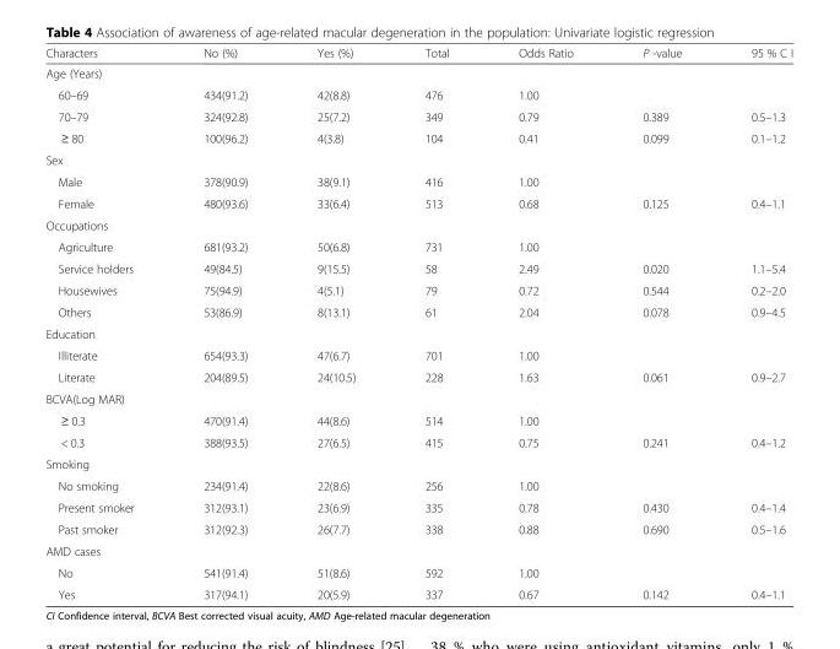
<table><thead><tr><td>Characters</td><td>No (%)</td><td>Yes (%)</td><td>Total</td><td>Odds Ratio</td><td>P -value</td><td>95 % C I</td></tr></thead><tbody><tr><td colspan="7">Age (Years)</td></tr><tr><td>60–69</td><td>434(91.2)</td><td>42(8.8)</td><td>476</td><td>1.00</td><td></td><td></td></tr><tr><td>70–79</td><td>324(92.8)</td><td>25(7.2)</td><td>349</td><td>0.79</td><td>0.389</td><td>0.5–1.3</td></tr><tr><td>≥ 80</td><td>100(96.2)</td><td>4(3.8)</td><td>104</td><td>0.41</td><td>0.099</td><td>0.1–1.2</td></tr><tr><td colspan="7">Sex</td></tr><tr><td>Male</td><td>378(90.9)</td><td>38(9.1)</td><td>416</td><td>1.00</td><td></td><td></td></tr><tr><td>Female</td><td>480(93.6)</td><td>33(6.4)</td><td>513</td><td>0.68</td><td>0.125</td><td>0.4–1.1</td></tr><tr><td colspan="7">Occupations</td></tr><tr><td>Agriculture</td><td>681(93.2)</td><td>50(6.8)</td><td>731</td><td>1.00</td><td></td><td></td></tr><tr><td>Service holders</td><td>49(84.5)</td><td>9(15.5)</td><td>58</td><td>2.49</td><td>0.020</td><td>1.1–5.4</td></tr><tr><td>Housewives</td><td>75(94.9)</td><td>4(5.1)</td><td>79</td><td>0.72</td><td>0.544</td><td>0.2–2.0</td></tr><tr><td>Others</td><td>53(86.9)</td><td>8(13.1)</td><td>61</td><td>2.04</td><td>0.078</td><td>0.9–4.5</td></tr><tr><td colspan="7">Education</td></tr><tr><td>Illiterate</td><td>654(93.3)</td><td>47(6.7)</td><td>701</td><td>1.00</td><td></td><td></td></tr><tr><td>Literate</td><td>204(89.5)</td><td>24(10.5)</td><td>228</td><td>1.63</td><td>0.061</td><td>0.9–2.7</td></tr><tr><td colspan="7">BCVA(Log MAR)</td></tr><tr><td>≥ 0.3</td><td>470(91.4)</td><td>44(8.6)</td><td>514</td><td>1.00</td><td></td><td></td></tr><tr><td>&lt; 0.3</td><td>388(93.5)</td><td>27(6.5)</td><td>415</td><td>0.75</td><td>0.241</td><td>0.4–1.2</td></tr><tr><td colspan="7">Smoking</td></tr><tr><td>No smoking</td><td>234(91.4)</td><td>22(8.6)</td><td>256</td><td>1.00</td><td></td><td></td></tr><tr><td>Present smoker</td><td>312(93.1)</td><td>23(6.9)</td><td>335</td><td>0.78</td><td>0.430</td><td>0.4–1.4</td></tr><tr><td>Past smoker</td><td>312(92.3)</td><td>26(7.7)</td><td>338</td><td>0.88</td><td>0.690</td><td>0.5–1.6</td></tr><tr><td colspan="7">AMD cases</td></tr><tr><td>No</td><td>541(91.4)</td><td>51(8.6)</td><td>592</td><td>1.00</td><td></td><td></td></tr><tr><td>Yes</td><td>317(94.1)</td><td>20(5.9)</td><td>337</td><td>0.67</td><td>0.142</td><td>0.4–1.1</td></tr></tbody></table>